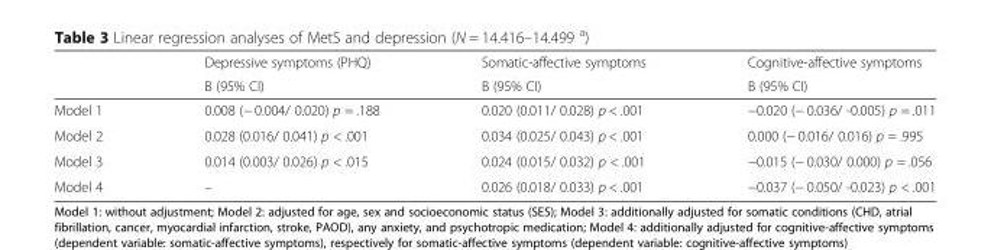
<table><thead><tr><td rowspan="2"></td><td rowspan="2">Depressive symptoms (PHQ) B (95% CI)</td><td rowspan="2">Somatic-affective symptoms B (95% CI)</td><td rowspan="2">Cognitive-affective symptoms B (95% CI)</td></tr><tr></tr></thead><tbody><tr><td>Model 1</td><td>0.008 (− 0.004/ 0.020) p = .188</td><td>0.020 (0.011/ 0.028) p &lt; .001</td><td>−0.020 (− 0.036/ -0.005) p = .011</td></tr><tr><td>Model 2</td><td>0.028 (0.016/ 0.041) p &lt; .001</td><td>0.034 (0.025/ 0.043) p &lt; .001</td><td>0.000 (− 0.016/ 0.016) p = .995</td></tr><tr><td>Model 3</td><td>0.014 (0.003/ 0.026) p &lt; .015</td><td>0.024 (0.015/ 0.032) p &lt; .001</td><td>−0.015 (− 0.030/ 0.000) p = .056</td></tr><tr><td>Model 4</td><td>–</td><td>0.026 (0.018/ 0.033) p &lt; .001</td><td>−0.037 (− 0.050/ -0.023) p &lt; .001</td></tr></tbody></table>